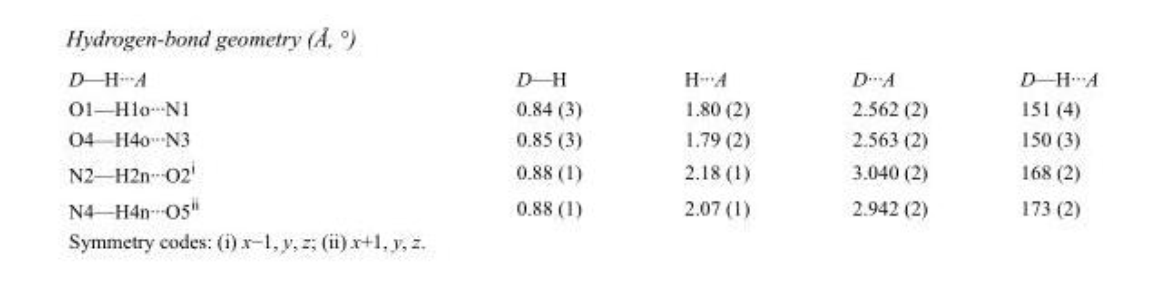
<table><tbody><tr><td>D—H···A</td><td>D—H</td><td>H···A</td><td>D···A</td><td>D—H···A</td></tr><tr><td>O1—H1o···N1</td><td>0.84 (3)</td><td>1.80 (2)</td><td>2.562 (2)</td><td>151 (4)</td></tr><tr><td>O4—H4o···N3</td><td>0.85 (3)</td><td>1.79 (2)</td><td>2.563 (2)</td><td>150 (3)</td></tr><tr><td>N2—H2n···O2<sup>i</sup></td><td>0.88 (1)</td><td>2.18 (1)</td><td>3.040 (2)</td><td>168 (2)</td></tr><tr><td>N4—H4n···O5<sup>ii</sup></td><td>0.88 (1)</td><td>2.07 (1)</td><td>2.942 (2)</td><td>173 (2)</td></tr></tbody></table>